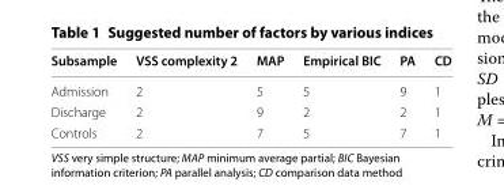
<table><thead><tr><td>Subsample</td><td>VSS complexity 2</td><td>MAP</td><td>Empirical BIC</td><td>PA</td><td>CD</td></tr></thead><tbody><tr><td>Admission</td><td>2</td><td>5</td><td>5</td><td>9</td><td>1</td></tr><tr><td>Discharge</td><td>2</td><td>9</td><td>2</td><td>2</td><td>1</td></tr><tr><td>Controls</td><td>2</td><td>7</td><td>5</td><td>7</td><td>1</td></tr></tbody></table>